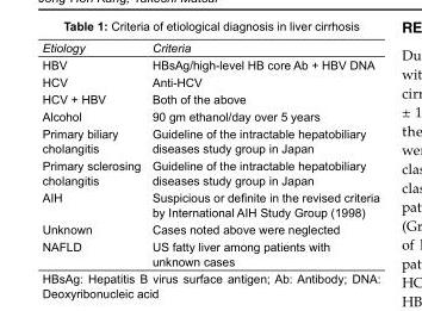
<table><tbody><tr><td>Etiology</td><td>Criteria</td></tr><tr><td>HBV</td><td>HBsAg/high-level HB core Ab + HBV DNA</td></tr><tr><td>HCV</td><td>Anti-HCV</td></tr><tr><td>HCV + HBV</td><td>Both of the above</td></tr><tr><td>Alcohol</td><td>90 gm ethanol/day over 5 years</td></tr><tr><td>Primary biliary cholangitis</td><td>Guideline of the intractable hepatobiliary diseases study group in Japan</td></tr><tr><td>Primary sclerosing cholangitis</td><td>Guideline of the intractable hepatobiliary diseases study group in Japan</td></tr><tr><td>AIH</td><td>Suspicious or definite in the revised criteria by International AIH Study Group (1998)</td></tr><tr><td>Unknown</td><td>Cases noted above were neglected</td></tr><tr><td>NAFLD</td><td>US fatty liver among patients with unknown cases</td></tr></tbody></table>